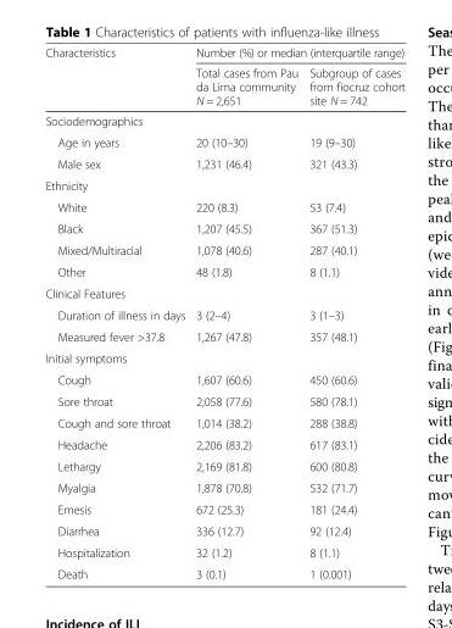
<table><thead><tr><td rowspan="2">Characteristics</td><td colspan="2">Number (%) or median (interquartile range)</td></tr><tr><td>Total cases from Pau da Lima community N = 2,651</td><td>Subgroup of cases from fiocruz cohort site N = 742</td></tr></thead><tbody><tr><td colspan="3">Sociodemographics</td></tr><tr><td>Age in years</td><td>20 (10–30)</td><td>19 (9–30)</td></tr><tr><td>Male sex</td><td>1,231 (46.4)</td><td>321 (43.3)</td></tr><tr><td colspan="3">Ethnicity</td></tr><tr><td>White</td><td>220 (8.3)</td><td>53 (7.4)</td></tr><tr><td>Black</td><td>1,207 (45.5)</td><td>367 (51.3)</td></tr><tr><td>Mixed/Multiracial</td><td>1,078 (40.6)</td><td>287 (40.1)</td></tr><tr><td>Other</td><td>48 (1.8)</td><td>8 (1.1)</td></tr><tr><td colspan="3">Clinical Features</td></tr><tr><td>Duration of illness in days</td><td>3 (2–4)</td><td>3 (1–3)</td></tr><tr><td>Measured fever &gt;37.8</td><td>1,267 (47.8)</td><td>357 (48.1)</td></tr><tr><td colspan="3">Initial symptoms</td></tr><tr><td>Cough</td><td>1,607 (60.6)</td><td>450 (60.6)</td></tr><tr><td>Sore throat</td><td>2,058 (77.6)</td><td>580 (78.1)</td></tr><tr><td>Cough and sore throat</td><td>1,014 (38.2)</td><td>288 (38.8)</td></tr><tr><td>Headache</td><td>2,206 (83.2)</td><td>617 (83.1)</td></tr><tr><td>Lethargy</td><td>2,169 (81.8)</td><td>600 (80.8)</td></tr><tr><td>Myalgia</td><td>1,878 (70.8)</td><td>532 (71.7)</td></tr><tr><td>Emesis</td><td>672 (25.3)</td><td>181 (24.4)</td></tr><tr><td>Diarrhea</td><td>336 (12.7)</td><td>92 (12.4)</td></tr><tr><td>Hospitalization</td><td>32 (1.2)</td><td>8 (1.1)</td></tr><tr><td>Death</td><td>3 (0.1)</td><td>1 (0.001)</td></tr></tbody></table>